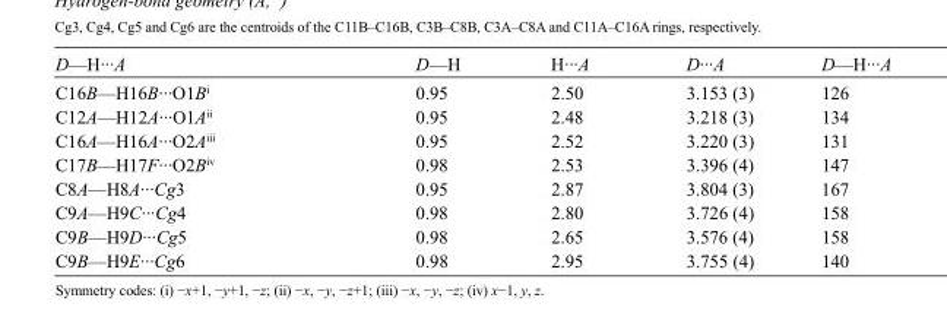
<table><tbody><tr><td>D—H···A</td><td>D—H</td><td>H···A</td><td>D···A</td><td>D—H···A</td></tr><tr><td>C16B—H16B···O1B<sup>i</sup></td><td>0.95</td><td>2.50</td><td>3.153 (3)</td><td>126</td></tr><tr><td>C12A—H12A···O1A<sup>ii</sup></td><td>0.95</td><td>2.48</td><td>3.218 (3)</td><td>134</td></tr><tr><td>C16A—H16A···O2A<sup>iii</sup></td><td>0.95</td><td>2.52</td><td>3.220 (3)</td><td>131</td></tr><tr><td>C17B—H17F···O2B<sup>iv</sup></td><td>0.98</td><td>2.53</td><td>3.396 (4)</td><td>147</td></tr><tr><td>C8A—H8A···Cg3</td><td>0.95</td><td>2.87</td><td>3.804 (3)</td><td>167</td></tr><tr><td>C9A—H9C···Cg4</td><td>0.98</td><td>2.80</td><td>3.726 (4)</td><td>158</td></tr><tr><td>C9B—H9D···Cg5</td><td>0.98</td><td>2.65</td><td>3.576 (4)</td><td>158</td></tr><tr><td>C9B—H9E···Cg6</td><td>0.98</td><td>2.95</td><td>3.755 (4)</td><td>140</td></tr></tbody></table>